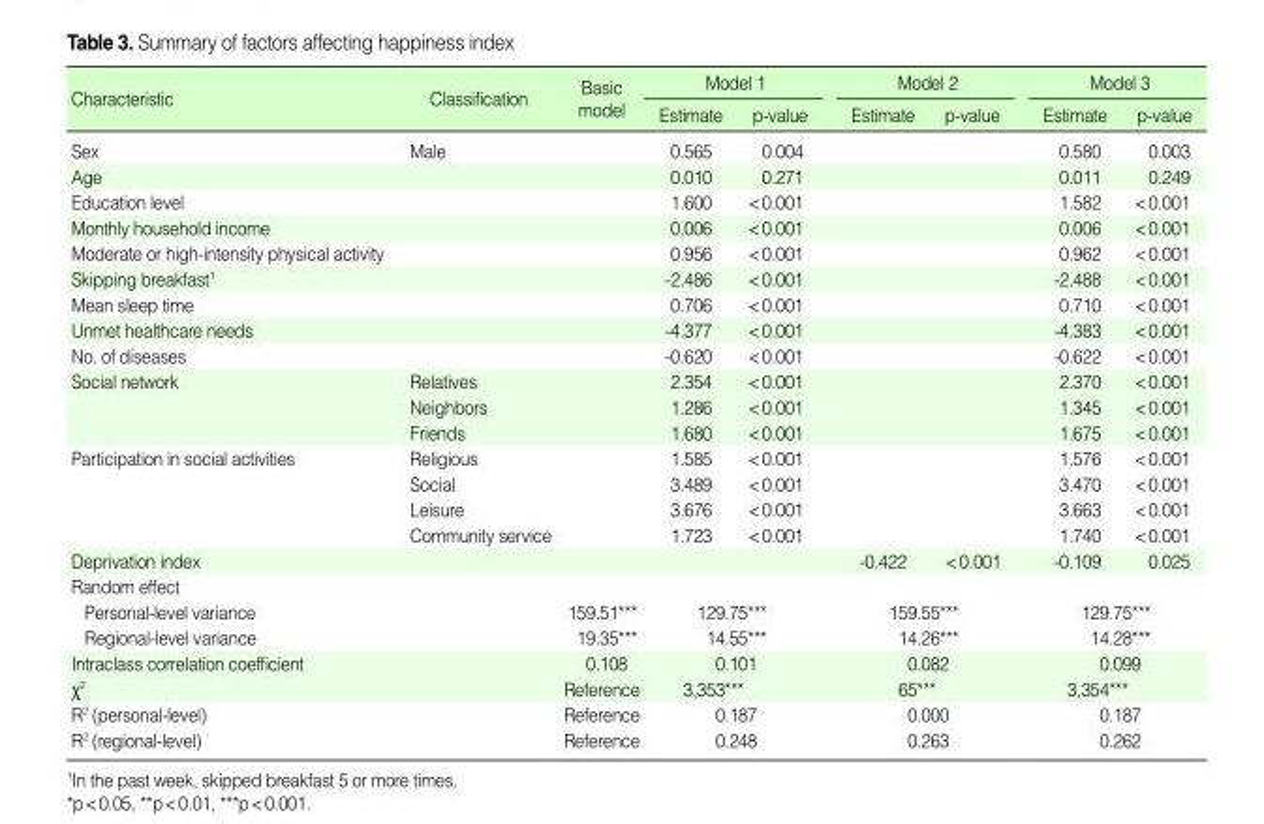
<table><thead><tr><td rowspan="2">Characteristic</td><td rowspan="2">Classification</td><td rowspan="2">Basic model</td><td colspan="2">Model 1</td><td colspan="2">Model 2</td><td colspan="2">Model 3</td></tr><tr><td>Estimate</td><td>p-value</td><td>Estimate</td><td>p-value</td><td>Estimate</td><td>p-value</td></tr></thead><tbody><tr><td>Sex</td><td>Male</td><td></td><td>0.565</td><td>0.004</td><td></td><td></td><td>0.580</td><td>0.003</td></tr><tr><td>Age</td><td></td><td></td><td>0.010</td><td>0.271</td><td></td><td></td><td>0.011</td><td>0.249</td></tr><tr><td>Education level</td><td></td><td></td><td>1.600</td><td>&lt;0.001</td><td></td><td></td><td>1.582</td><td>&lt;0.001</td></tr><tr><td>Monthly household income</td><td></td><td></td><td>0.006</td><td>&lt;0.001</td><td></td><td></td><td>0.006</td><td>&lt;0.001</td></tr><tr><td>Moderate or high-intensity physical activity</td><td></td><td></td><td>0.956</td><td>&lt;0.001</td><td></td><td></td><td>0.962</td><td>&lt;0.001</td></tr><tr><td>Skipping breakfast<sup>1</sup></td><td></td><td></td><td>-2.486</td><td>&lt;0.001</td><td></td><td></td><td>-2.488</td><td>&lt;0.001</td></tr><tr><td>Mean sleep time</td><td></td><td></td><td>0.706</td><td>&lt;0.001</td><td></td><td></td><td>0.710</td><td>&lt;0.001</td></tr><tr><td>Unmet healthcare needs</td><td></td><td></td><td>-4.377</td><td>&lt;0.001</td><td></td><td></td><td>-4.383</td><td>&lt;0.001</td></tr><tr><td>No. of diseases</td><td></td><td></td><td>-0.620</td><td>&lt;0.001</td><td></td><td></td><td>-0.622</td><td>&lt;0.001</td></tr><tr><td rowspan="3">Social network</td><td>Relatives</td><td></td><td>2.354</td><td>&lt;0.001</td><td></td><td></td><td>2.370</td><td>&lt;0.001</td></tr><tr><td>Neighbors</td><td></td><td>1.286</td><td>&lt;0.001</td><td></td><td></td><td>1.345</td><td>&lt;0.001</td></tr><tr><td>Friends</td><td></td><td>1.680</td><td>&lt;0.001</td><td></td><td></td><td>1.675</td><td>&lt;0.001</td></tr><tr><td rowspan="4">Participation in social activities</td><td>Religious</td><td></td><td>1.585</td><td>&lt;0.001</td><td></td><td></td><td>1.576</td><td>&lt;0.001</td></tr><tr><td>Social</td><td></td><td>3.489</td><td>&lt;0.001</td><td></td><td></td><td>3.470</td><td>&lt;0.001</td></tr><tr><td>Leisure</td><td></td><td>3.676</td><td>&lt;0.001</td><td></td><td></td><td>3.663</td><td>&lt;0.001</td></tr><tr><td>Community service</td><td></td><td>1.723</td><td>&lt;0.001</td><td></td><td></td><td>1.740</td><td>&lt;0.001</td></tr><tr><td>Deprivation index</td><td></td><td></td><td></td><td></td><td>-0.422</td><td>&lt;0.001</td><td>-0.109</td><td>0.025</td></tr><tr><td colspan="9">Random effect</td></tr><tr><td>Personal-level variance</td><td></td><td>159.51***</td><td colspan="2">129.75***</td><td colspan="2">159.55***</td><td colspan="2">129.75***</td></tr><tr><td>Regional-level variance</td><td></td><td>19.35***</td><td colspan="2">14.55***</td><td colspan="2">14.26***</td><td colspan="2">14.28***</td></tr><tr><td>Intraclass correlation coefficient</td><td></td><td>0.108</td><td colspan="2">0.101</td><td colspan="2">0.082</td><td colspan="2">0.099</td></tr><tr><td>χ<sup>2</sup></td><td></td><td>Reference</td><td colspan="2">3,353***</td><td colspan="2">65***</td><td colspan="2">3,354***</td></tr><tr><td>R<sup>2</sup> (personal-level)</td><td></td><td>Reference</td><td colspan="2">0.187</td><td colspan="2">0.000</td><td colspan="2">0.187</td></tr><tr><td>R<sup>2</sup> (regional-level)</td><td></td><td>Reference</td><td colspan="2">0.248</td><td colspan="2">0.263</td><td colspan="2">0.262</td></tr></tbody></table>